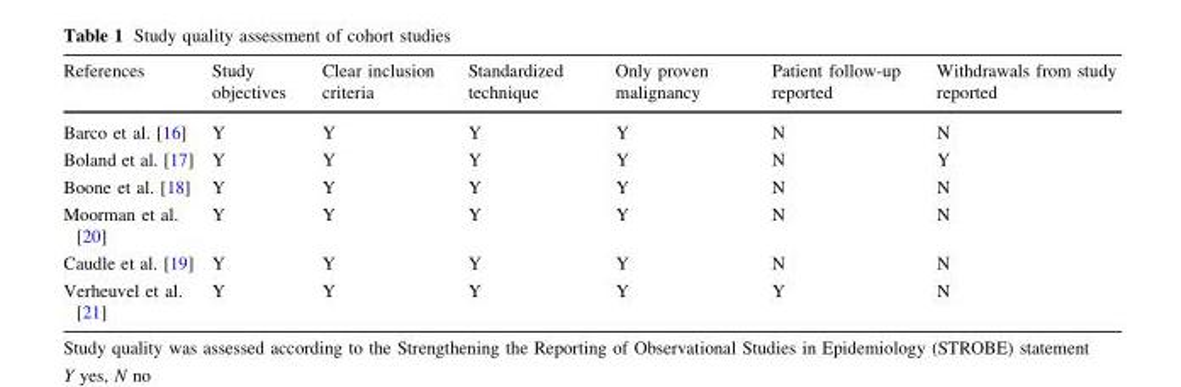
<table><thead><tr><td>References</td><td>Study objectives</td><td>Clear inclusion criteria</td><td>Standardized technique</td><td>Only proven malignancy</td><td>Patient follow-up reported</td><td>Withdrawals from study reported</td></tr></thead><tbody><tr><td>Barco et al. [16]</td><td>Y</td><td>Y</td><td>Y</td><td>Y</td><td>N</td><td>N</td></tr><tr><td>Boland et al. [17]</td><td>Y</td><td>Y</td><td>Y</td><td>Y</td><td>N</td><td>Y</td></tr><tr><td>Boone et al. [18]</td><td>Y</td><td>Y</td><td>Y</td><td>Y</td><td>N</td><td>N</td></tr><tr><td>Moorman et al. [20]</td><td>Y</td><td>Y</td><td>Y</td><td>Y</td><td>N</td><td>N</td></tr><tr><td>Caudle et al. [19]</td><td>Y</td><td>Y</td><td>Y</td><td>Y</td><td>N</td><td>N</td></tr><tr><td>Verheuvel et al. [21]</td><td>Y</td><td>Y</td><td>Y</td><td>Y</td><td>Y</td><td>N</td></tr></tbody></table>